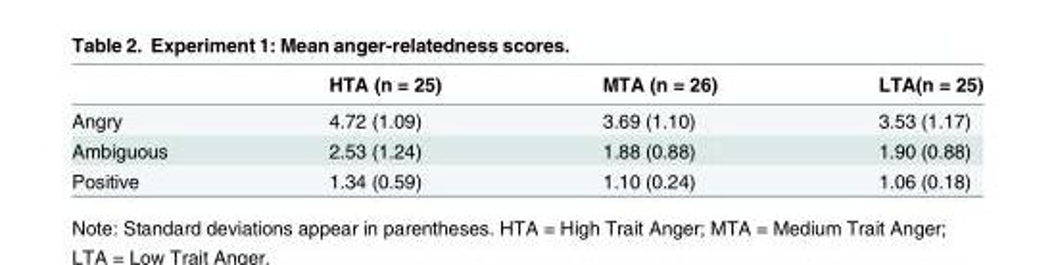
<table><thead><tr><td></td><td>HTA (n = 25)</td><td>MTA (n = 26)</td><td>LTA(n = 25)</td></tr></thead><tbody><tr><td>Angry</td><td>4.72 (1.09)</td><td>3.69 (1.10)</td><td>3.53 (1.17)</td></tr><tr><td>Ambiguous</td><td>2.53 (1.24)</td><td>1.88 (0.88)</td><td>1.90 (0.88)</td></tr><tr><td>Positive</td><td>1.34 (0.59)</td><td>1.10 (0.24)</td><td>1.06 (0.18)</td></tr></tbody></table>